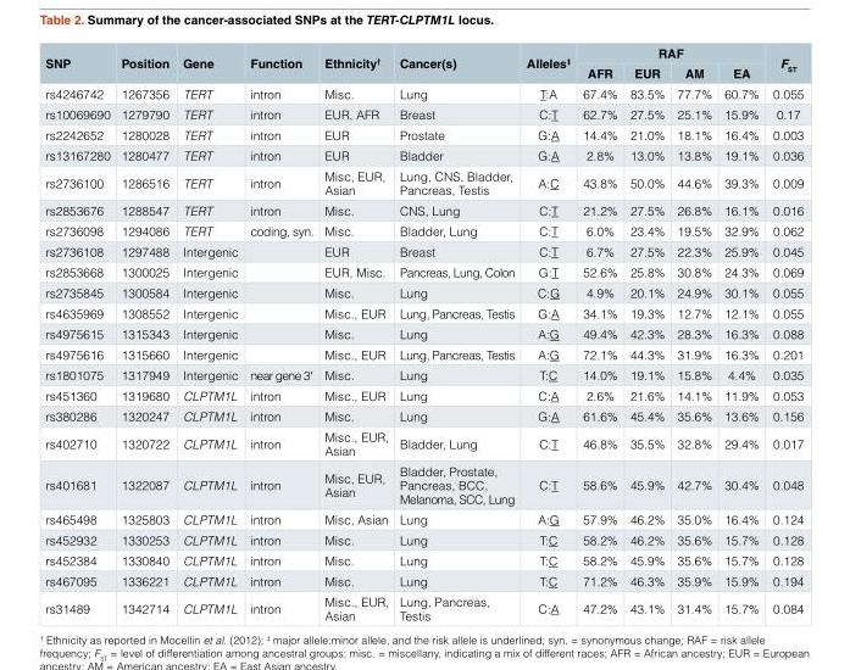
<table><thead><tr><td rowspan="2">SNP</td><td rowspan="2">Position</td><td rowspan="2">Gene</td><td rowspan="2">Function</td><td rowspan="2">Ethnicity<sup>†</sup></td><td rowspan="2">Cancer(s)</td><td rowspan="2">Alleles<sup>‡</sup></td><td colspan="4">RAF</td><td rowspan="2">F<sub>ST</sub></td></tr><tr><td>AFR</td><td>EUR</td><td>AM</td><td>EA</td></tr></thead><tbody><tr><td>rs4246742</td><td>1267356</td><td>TERT</td><td>intron</td><td>Misc.</td><td>Lung</td><td>T:A</td><td>67.4%</td><td>83.5%</td><td>77.7%</td><td>60.7%</td><td>0.055</td></tr><tr><td>rs10069690</td><td>1279790</td><td>TERT</td><td>intron</td><td>EUR, AFR</td><td>Breast</td><td>C:T</td><td>62.7%</td><td>27.5%</td><td>25.1%</td><td>15.9%</td><td>0.17</td></tr><tr><td>rs2242652</td><td>1280028</td><td>TERT</td><td>intron</td><td>EUR</td><td>Prostate</td><td>G:A</td><td>14.4%</td><td>21.0%</td><td>18.1%</td><td>16.4%</td><td>0.003</td></tr><tr><td>rs13167280</td><td>1280477</td><td>TERT</td><td>intron</td><td>EUR</td><td>Bladder</td><td>G:A</td><td>2.8%</td><td>13.0%</td><td>13.8%</td><td>19.1%</td><td>0.036</td></tr><tr><td>rs2736100</td><td>1286516</td><td>TERT</td><td>intron</td><td>Misc, EUR, Asian</td><td>Lung, CNS, Bladder, Pancreas, Testis</td><td>A:C</td><td>43.8%</td><td>50.0%</td><td>44.6%</td><td>39.3%</td><td>0.009</td></tr><tr><td>rs2853676</td><td>1288547</td><td>TERT</td><td>intron</td><td>Misc.</td><td>CNS, Lung</td><td>C:T</td><td>21.2%</td><td>27.5%</td><td>26.8%</td><td>16.1%</td><td>0.016</td></tr><tr><td>rs2736098</td><td>1294086</td><td>TERT</td><td>coding, syn.</td><td>Misc.</td><td>Bladder, Lung</td><td>C:T</td><td>6.0%</td><td>23.4%</td><td>19.5%</td><td>32.9%</td><td>0.062</td></tr><tr><td>rs2736108</td><td>1297488</td><td>Intergenic</td><td></td><td>EUR</td><td>Breast</td><td>C:T</td><td>6.7%</td><td>27.5%</td><td>22.3%</td><td>25.9%</td><td>0.045</td></tr><tr><td>rs2853668</td><td>1300025</td><td>Intergenic</td><td></td><td>EUR, Misc.</td><td>Pancreas, Lung, Colon</td><td>G:T</td><td>52.6%</td><td>25.8%</td><td>30.8%</td><td>24.3%</td><td>0.069</td></tr><tr><td>rs2735845</td><td>1300584</td><td>Intergenic</td><td></td><td>Misc.</td><td>Lung</td><td>C:G</td><td>4.9%</td><td>20.1%</td><td>24.9%</td><td>30.1%</td><td>0.055</td></tr><tr><td>rs4635969</td><td>1308552</td><td>Intergenic</td><td></td><td>Misc., EUR</td><td>Lung, Pancreas, Testis</td><td>G:A</td><td>34.1%</td><td>19.3%</td><td>12.7%</td><td>12.1%</td><td>0.055</td></tr><tr><td>rs4975615</td><td>1315343</td><td>Intergenic</td><td></td><td>Misc.</td><td>Lung</td><td>A:G</td><td>49.4%</td><td>42.3%</td><td>28.3%</td><td>16.3%</td><td>0.088</td></tr><tr><td>rs4975616</td><td>1315660</td><td>Intergenic</td><td></td><td>Misc., EUR</td><td>Lung, Pancreas, Testis</td><td>A:G</td><td>72.1%</td><td>44.3%</td><td>31.9%</td><td>16.3%</td><td>0.201</td></tr><tr><td>rs1801075</td><td>1317949</td><td>Intergenic</td><td>near gene 3&#x27;</td><td>Misc.</td><td>Lung</td><td>T:C</td><td>14.0%</td><td>19.1%</td><td>15.8%</td><td>4.4%</td><td>0.035</td></tr><tr><td>rs451360</td><td>1319680</td><td>CLPTM1L</td><td>intron</td><td>Misc., EUR</td><td>Lung</td><td>C:A</td><td>2.6%</td><td>21.6%</td><td>14.1%</td><td>11.9%</td><td>0.053</td></tr><tr><td>rs380286</td><td>1320247</td><td>CLPTM1L</td><td>intron</td><td>Misc.</td><td>Lung</td><td>G:A</td><td>61.6%</td><td>45.4%</td><td>35.6%</td><td>13.6%</td><td>0.156</td></tr><tr><td>rs402710</td><td>1320722</td><td>CLPTM1L</td><td>intron</td><td>Misc., EUR, Asian</td><td>Bladder, Lung</td><td>C:T</td><td>46.8%</td><td>35.5%</td><td>32.8%</td><td>29.4%</td><td>0.017</td></tr><tr><td>rs401681</td><td>1322087</td><td>CLPTM1L</td><td>intron</td><td>Misc, EUR, Asian</td><td>Bladder, Prostate, Pancreas, BCC, Melanoma, SCC, Lung</td><td>C:T</td><td>58.6%</td><td>45.9%</td><td>42.7%</td><td>30.4%</td><td>0.048</td></tr><tr><td>rs465498</td><td>1325803</td><td>CLPTM1L</td><td>intron</td><td>Misc, Asian</td><td>Lung</td><td>A:G</td><td>57.9%</td><td>46.2%</td><td>35.0%</td><td>16.4%</td><td>0.124</td></tr><tr><td>rs452932</td><td>1330253</td><td>CLPTM1L</td><td>intron</td><td>Misc.</td><td>Lung</td><td>T:C</td><td>58.2%</td><td>46.2%</td><td>35.6%</td><td>15.7%</td><td>0.128</td></tr><tr><td>rs452384</td><td>1330840</td><td>CLPTM1L</td><td>intron</td><td>Misc.</td><td>Lung</td><td>T:C</td><td>58.2%</td><td>45.9%</td><td>35.6%</td><td>15.7%</td><td>0.128</td></tr><tr><td>rs467095</td><td>1336221</td><td>CLPTM1L</td><td>intron</td><td>Misc.</td><td>Lung</td><td>T:C</td><td>71.2%</td><td>46.3%</td><td>35.9%</td><td>15.9%</td><td>0.194</td></tr><tr><td>rs31489</td><td>1342714</td><td>CLPTM1L</td><td>intron</td><td>Misc., EUR, Asian</td><td>Lung, Pancreas, Testis</td><td>C:A</td><td>47.2%</td><td>43.1%</td><td>31.4%</td><td>15.7%</td><td>0.084</td></tr></tbody></table>